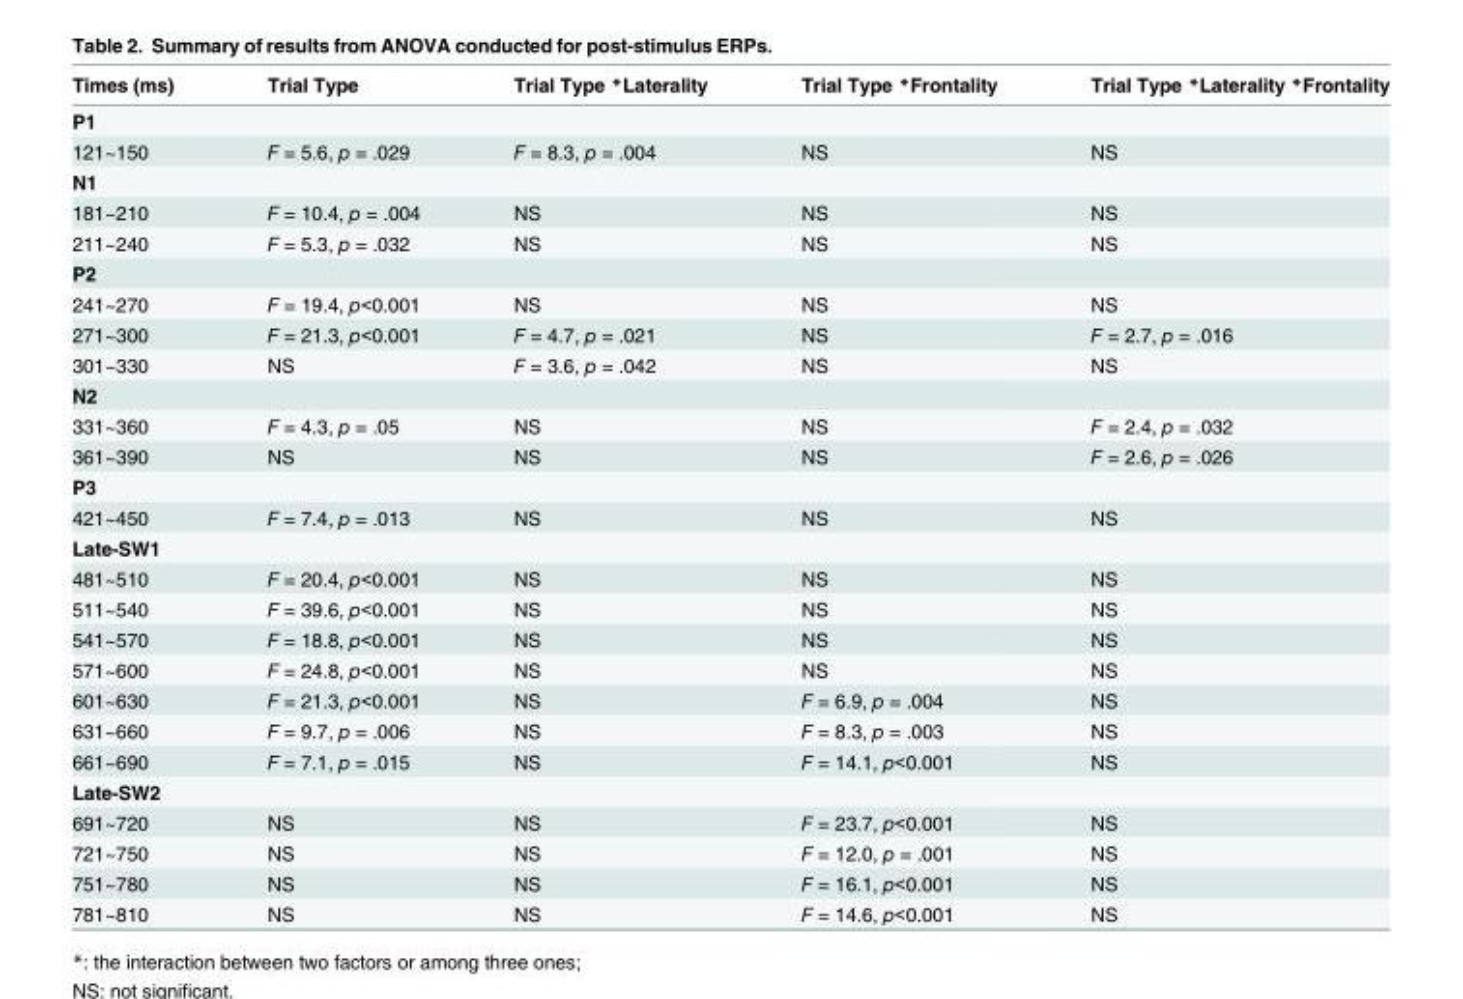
<table><thead><tr><td>Times (ms)</td><td>Trial Type</td><td>Trial Type *Laterality</td><td>Trial Type *Frontality</td><td>Trial Type *Laterality *Frontality</td></tr></thead><tbody><tr><td colspan="5">P1</td></tr><tr><td>121~150</td><td>F = 5.6, p = .029</td><td>F = 8.3, p = .004</td><td>NS</td><td>NS</td></tr><tr><td colspan="5">N1</td></tr><tr><td>181~210</td><td>F = 10.4, p = .004</td><td>NS</td><td>NS</td><td>NS</td></tr><tr><td>211~240</td><td>F = 5.3, p = .032</td><td>NS</td><td>NS</td><td>NS</td></tr><tr><td colspan="5">P2</td></tr><tr><td>241~270</td><td>F = 19.4, p&lt;0.001</td><td>NS</td><td>NS</td><td>NS</td></tr><tr><td>271~300</td><td>F = 21.3, p&lt;0.001</td><td>F = 4.7, p = .021</td><td>NS</td><td>F = 2.7, p = .016</td></tr><tr><td>301~330</td><td>NS</td><td>F = 3.6, p = .042</td><td>NS</td><td>NS</td></tr><tr><td colspan="5">N2</td></tr><tr><td>331~360</td><td>F = 4.3, p = .05</td><td>NS</td><td>NS</td><td>F = 2.4, p = .032</td></tr><tr><td>361~390</td><td>NS</td><td>NS</td><td>NS</td><td>F = 2.6, p = .026</td></tr><tr><td colspan="5">P3</td></tr><tr><td>421~450</td><td>F = 7.4, p = .013</td><td>NS</td><td>NS</td><td>NS</td></tr><tr><td colspan="5">Late-SW1</td></tr><tr><td>481~510</td><td>F = 20.4, p&lt;0.001</td><td>NS</td><td>NS</td><td>NS</td></tr><tr><td>511~540</td><td>F = 39.6, p&lt;0.001</td><td>NS</td><td>NS</td><td>NS</td></tr><tr><td>541~570</td><td>F = 18.8, p&lt;0.001</td><td>NS</td><td>NS</td><td>NS</td></tr><tr><td>571~600</td><td>F = 24.8, p&lt;0.001</td><td>NS</td><td>NS</td><td>NS</td></tr><tr><td>601~630</td><td>F = 21.3, p&lt;0.001</td><td>NS</td><td>F = 6.9, p = .004</td><td>NS</td></tr><tr><td>631~660</td><td>F = 9.7, p = .006</td><td>NS</td><td>F = 8.3, p = .003</td><td>NS</td></tr><tr><td>661~690</td><td>F = 7.1, p = .015</td><td>NS</td><td>F = 14.1, p&lt;0.001</td><td>NS</td></tr><tr><td colspan="5">Late-SW2</td></tr><tr><td>691~720</td><td>NS</td><td>NS</td><td>F = 23.7, p&lt;0.001</td><td>NS</td></tr><tr><td>721~750</td><td>NS</td><td>NS</td><td>F = 12.0, p = .001</td><td>NS</td></tr><tr><td>751~780</td><td>NS</td><td>NS</td><td>F = 16.1, p&lt;0.001</td><td>NS</td></tr><tr><td>781~810</td><td>NS</td><td>NS</td><td>F = 14.6, p&lt;0.001</td><td>NS</td></tr></tbody></table>